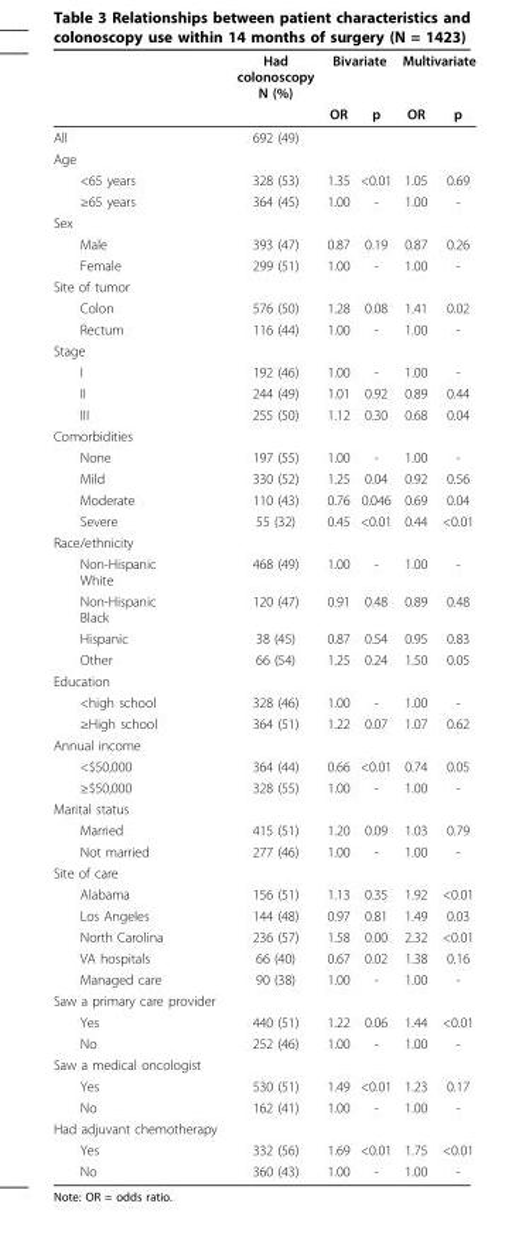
<table><thead><tr><td rowspan="2"></td><td rowspan="2">Had colonoscopy N (%)</td><td colspan="2">Bivariate</td><td colspan="2">Multivariate</td></tr><tr><td>OR</td><td>p</td><td>OR</td><td>p</td></tr></thead><tbody><tr><td>All</td><td>692 (49)</td><td></td><td></td><td></td><td></td></tr><tr><td colspan="6">Age</td></tr><tr><td>&lt;65 years</td><td>328 (53)</td><td>1.35</td><td>&lt;0.01</td><td>1.05</td><td>0.69</td></tr><tr><td>≥65 years</td><td>364 (45)</td><td>1.00</td><td>-</td><td>1.00</td><td>-</td></tr><tr><td colspan="6">Sex</td></tr><tr><td>Male</td><td>393 (47)</td><td>0.87</td><td>0.19</td><td>0.87</td><td>0.26</td></tr><tr><td>Female</td><td>299 (51)</td><td>1.00</td><td>-</td><td>1.00</td><td>-</td></tr><tr><td colspan="6">Site of tumor</td></tr><tr><td>Colon</td><td>576 (50)</td><td>1.28</td><td>0.08</td><td>1.41</td><td>0.02</td></tr><tr><td>Rectum</td><td>116 (44)</td><td>1.00</td><td>-</td><td>1.00</td><td>-</td></tr><tr><td colspan="6">Stage</td></tr><tr><td>I</td><td>192 (46)</td><td>1.00</td><td>-</td><td>1.00</td><td>-</td></tr><tr><td>II</td><td>244 (49)</td><td>1.01</td><td>0.92</td><td>0.89</td><td>0.44</td></tr><tr><td>III</td><td>255 (50)</td><td>1.12</td><td>0.30</td><td>0.68</td><td>0.04</td></tr><tr><td colspan="6">Comorbidities</td></tr><tr><td>None</td><td>197 (55)</td><td>1.00</td><td>-</td><td>1.00</td><td>-</td></tr><tr><td>Mild</td><td>330 (52)</td><td>1.25</td><td>0.04</td><td>0.92</td><td>0.56</td></tr><tr><td>Moderate</td><td>110 (43)</td><td>0.76</td><td>0.046</td><td>0.69</td><td>0.04</td></tr><tr><td>Severe</td><td>55 (32)</td><td>0.45</td><td>&lt;0.01</td><td>0.44</td><td>&lt;0.01</td></tr><tr><td colspan="6">Race/ethnicity</td></tr><tr><td>Non-Hispanic White</td><td>468 (49)</td><td>1.00</td><td>-</td><td>1.00</td><td>-</td></tr><tr><td>Non-Hispanic Black</td><td>120 (47)</td><td>0.91</td><td>0.48</td><td>0.89</td><td>0.48</td></tr><tr><td>Hispanic</td><td>38 (45)</td><td>0.87</td><td>0.54</td><td>0.95</td><td>0.83</td></tr><tr><td>Other</td><td>66 (54)</td><td>1.25</td><td>0.24</td><td>1.50</td><td>0.05</td></tr><tr><td colspan="6">Education</td></tr><tr><td>&lt;high school</td><td>328 (46)</td><td>1.00</td><td>-</td><td>1.00</td><td>-</td></tr><tr><td>≥High school</td><td>364 (51)</td><td>1.22</td><td>0.07</td><td>1.07</td><td>0.62</td></tr><tr><td colspan="6">Annual income</td></tr><tr><td>&lt;$50,000</td><td>364 (44)</td><td>0.66</td><td>&lt;0.01</td><td>0.74</td><td>0.05</td></tr><tr><td>≥$50,000</td><td>328 (55)</td><td>1.00</td><td>-</td><td>1.00</td><td>-</td></tr><tr><td colspan="6">Marital status</td></tr><tr><td>Married</td><td>415 (51)</td><td>1.20</td><td>0.09</td><td>1.03</td><td>0.79</td></tr><tr><td>Not married</td><td>277 (46)</td><td>1.00</td><td>-</td><td>1.00</td><td>-</td></tr><tr><td colspan="6">Site of care</td></tr><tr><td>Alabama</td><td>156 (51)</td><td>1.13</td><td>0.35</td><td>1.92</td><td>&lt;0.01</td></tr><tr><td>Los Angeles</td><td>144 (48)</td><td>0.97</td><td>0.81</td><td>1.49</td><td>0.03</td></tr><tr><td>North Carolina</td><td>236 (57)</td><td>1.58</td><td>0.00</td><td>2.32</td><td>&lt;0.01</td></tr><tr><td>VA hospitals</td><td>66 (40)</td><td>0.67</td><td>0.02</td><td>1.38</td><td>0.16</td></tr><tr><td>Managed care</td><td>90 (38)</td><td>1.00</td><td>-</td><td>1.00</td><td>-</td></tr><tr><td colspan="6">Saw a primary care provider</td></tr><tr><td>Yes</td><td>440 (51)</td><td>1.22</td><td>0.06</td><td>1.44</td><td>&lt;0.01</td></tr><tr><td>No</td><td>252 (46)</td><td>1.00</td><td>-</td><td>1.00</td><td>-</td></tr><tr><td colspan="6">Saw a medical oncologist</td></tr><tr><td>Yes</td><td>530 (51)</td><td>1.49</td><td>&lt;0.01</td><td>1.23</td><td>0.17</td></tr><tr><td>No</td><td>162 (41)</td><td>1.00</td><td>-</td><td>1.00</td><td>-</td></tr><tr><td colspan="6">Had adjuvant chemotherapy</td></tr><tr><td>Yes</td><td>332 (56)</td><td>1.69</td><td>&lt;0.01</td><td>1.75</td><td>&lt;0.01</td></tr><tr><td>No</td><td>360 (43)</td><td>1.00</td><td>-</td><td>1.00</td><td>-</td></tr></tbody></table>